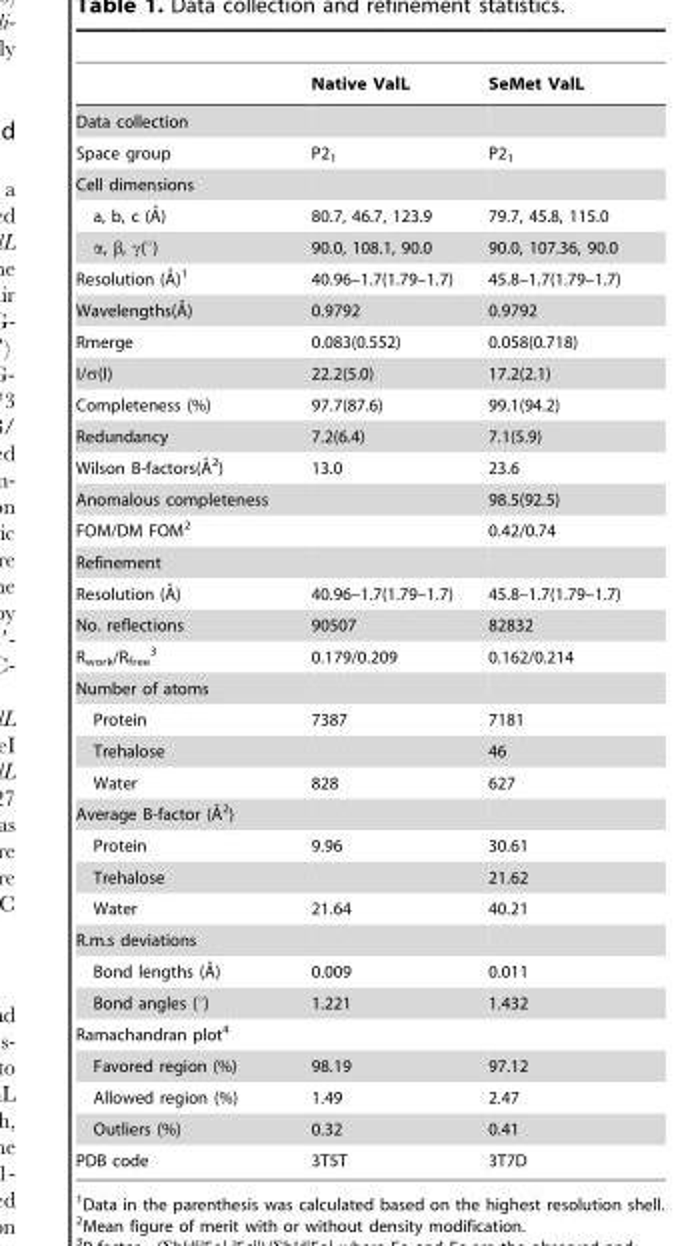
<table><thead><tr><td></td><td>Native ValL</td><td>SeMet ValL</td></tr></thead><tbody><tr><td colspan="3">Data collection</td></tr><tr><td>Space group</td><td>P2<sub>1</sub></td><td>P2<sub>1</sub></td></tr><tr><td colspan="3">Cell dimensions</td></tr><tr><td>a, b, c (A˚)</td><td>80.7, 46.7, 123.9</td><td>79.7, 45.8, 115.0</td></tr><tr><td>α, β, γ(°)</td><td>90.0, 108.1, 90.0</td><td>90.0, 107.36, 90.0</td></tr><tr><td>Resolution (A˚)1</td><td>40.96–1.7(1.79–1.7)</td><td>45.8–1.7(1.79–1.7)</td></tr><tr><td>Wavelengths(A˚)</td><td>0.9792</td><td>0.9792</td></tr><tr><td>Rmerge</td><td>0.083(0.552)</td><td>0.058(0.718)</td></tr><tr><td>I/σ(I)</td><td>22.2(5.0)</td><td>17.2(2.1)</td></tr><tr><td>Completeness (%)</td><td>97.7(87.6)</td><td>99.1(94.2)</td></tr><tr><td>Redundancy</td><td>7.2(6.4)</td><td>7.1(5.9)</td></tr><tr><td>Wilson B-factors(A˚ 2)</td><td>13.0</td><td>23.6</td></tr><tr><td>Anomalous completeness</td><td></td><td>98.5(92.5)</td></tr><tr><td>FOM/DM FOM<sup>2</sup></td><td></td><td>0.42/0.74</td></tr><tr><td colspan="3">Refinement</td></tr><tr><td>Resolution (A˚)</td><td>40.96–1.7(1.79–1.7)</td><td>45.8–1.7(1.79–1.7)</td></tr><tr><td>No. reflections</td><td>90507</td><td>82832</td></tr><tr><td>R<sub>work</sub>/R<sub>free</sub> 3</td><td>0.179/0.209</td><td>0.162/0.214</td></tr><tr><td colspan="3">Number of atoms</td></tr><tr><td>Protein</td><td>7387</td><td>7181</td></tr><tr><td>Trehalose</td><td></td><td>46</td></tr><tr><td>Water</td><td>828</td><td>627</td></tr><tr><td colspan="3">Average B-factor (A˚2)</td></tr><tr><td>Protein</td><td>9.96</td><td>30.61</td></tr><tr><td>Trehalose</td><td></td><td>21.62</td></tr><tr><td>Water</td><td>21.64</td><td>40.21</td></tr><tr><td colspan="3">R.m.s deviations</td></tr><tr><td>Bond lengths (A˚)</td><td>0.009</td><td>0.011</td></tr><tr><td>Bond angles (°)</td><td>1.221</td><td>1.432</td></tr><tr><td colspan="3">Ramachandran plot<sup>4</sup></td></tr><tr><td>Favored region (%)</td><td>98.19</td><td>97.12</td></tr><tr><td>Allowed region (%)</td><td>1.49</td><td>2.47</td></tr><tr><td>Outliers (%)</td><td>0.32</td><td>0.41</td></tr><tr><td>PDB code</td><td>3T5T</td><td>3T7D</td></tr></tbody></table>